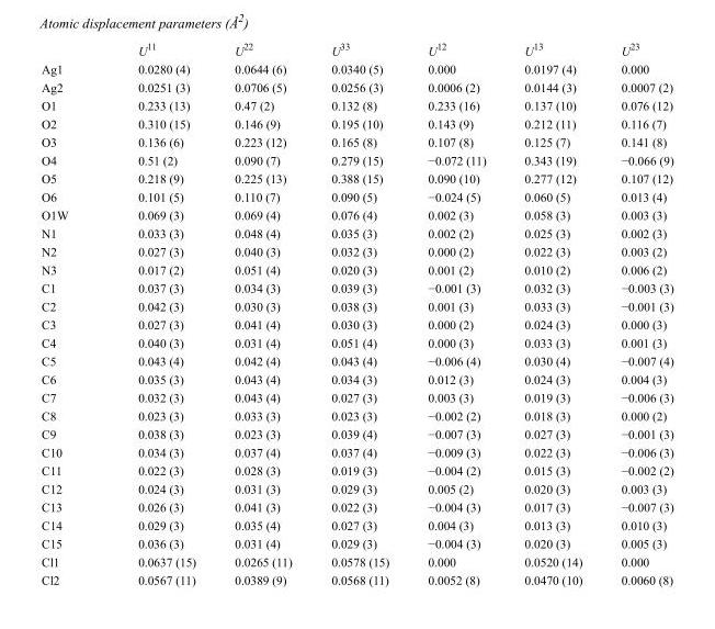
<table><thead><tr><td></td><td>U<sup>11</sup></td><td>U<sup>22</sup></td><td>U<sup>33</sup></td><td>U<sup>12</sup></td><td>U<sup>13</sup></td><td>U<sup>23</sup></td></tr></thead><tbody><tr><td>Ag1</td><td>0.0280 (4)</td><td>0.0644 (6)</td><td>0.0340 (5)</td><td>0.000</td><td>0.0197 (4)</td><td>0.000</td></tr><tr><td>Ag2</td><td>0.0251 (3)</td><td>0.0706 (5)</td><td>0.0256 (3)</td><td>0.0006 (2)</td><td>0.0144 (3)</td><td>0.0007 (2)</td></tr><tr><td>O1</td><td>0.233 (13)</td><td>0.47 (2)</td><td>0.132 (8)</td><td>0.233 (16)</td><td>0.137 (10)</td><td>0.076 (12)</td></tr><tr><td>O2</td><td>0.310 (15)</td><td>0.146 (9)</td><td>0.195 (10)</td><td>0.143 (9)</td><td>0.212 (11)</td><td>0.116 (7)</td></tr><tr><td>O3</td><td>0.136 (6)</td><td>0.223 (12)</td><td>0.165 (8)</td><td>0.107 (8)</td><td>0.125 (7)</td><td>0.141 (8)</td></tr><tr><td>O4</td><td>0.51 (2)</td><td>0.090 (7)</td><td>0.279 (15)</td><td>−0.072 (11)</td><td>0.343 (19)</td><td>−0.066 (9)</td></tr><tr><td>O5</td><td>0.218 (9)</td><td>0.225 (13)</td><td>0.388 (15)</td><td>0.090 (10)</td><td>0.277 (12)</td><td>0.107 (12)</td></tr><tr><td>O6</td><td>0.101 (5)</td><td>0.110 (7)</td><td>0.090 (5)</td><td>−0.024 (5)</td><td>0.060 (5)</td><td>0.013 (4)</td></tr><tr><td>O1W</td><td>0.069 (3)</td><td>0.069 (4)</td><td>0.076 (4)</td><td>0.002 (3)</td><td>0.058 (3)</td><td>0.003 (3)</td></tr><tr><td>N1</td><td>0.033 (3)</td><td>0.048 (4)</td><td>0.035 (3)</td><td>0.002 (2)</td><td>0.025 (3)</td><td>0.002 (3)</td></tr><tr><td>N2</td><td>0.027 (3)</td><td>0.040 (3)</td><td>0.032 (3)</td><td>0.000 (2)</td><td>0.022 (3)</td><td>0.003 (2)</td></tr><tr><td>N3</td><td>0.017 (2)</td><td>0.051 (4)</td><td>0.020 (3)</td><td>0.001 (2)</td><td>0.010 (2)</td><td>0.006 (2)</td></tr><tr><td>C1</td><td>0.037 (3)</td><td>0.034 (3)</td><td>0.039 (3)</td><td>−0.001 (3)</td><td>0.032 (3)</td><td>−0.003 (3)</td></tr><tr><td>C2</td><td>0.042 (3)</td><td>0.030 (3)</td><td>0.038 (3)</td><td>0.001 (3)</td><td>0.033 (3)</td><td>−0.001 (3)</td></tr><tr><td>C3</td><td>0.027 (3)</td><td>0.041 (4)</td><td>0.030 (3)</td><td>0.000 (2)</td><td>0.024 (3)</td><td>0.000 (3)</td></tr><tr><td>C4</td><td>0.040 (3)</td><td>0.031 (4)</td><td>0.051 (4)</td><td>0.000 (3)</td><td>0.033 (3)</td><td>0.001 (3)</td></tr><tr><td>C5</td><td>0.043 (4)</td><td>0.042 (4)</td><td>0.043 (4)</td><td>−0.006 (4)</td><td>0.030 (4)</td><td>−0.007 (4)</td></tr><tr><td>C6</td><td>0.035 (3)</td><td>0.043 (4)</td><td>0.034 (3)</td><td>0.012 (3)</td><td>0.024 (3)</td><td>0.004 (3)</td></tr><tr><td>C7</td><td>0.032 (3)</td><td>0.043 (4)</td><td>0.027 (3)</td><td>0.003 (3)</td><td>0.019 (3)</td><td>−0.006 (3)</td></tr><tr><td>C8</td><td>0.023 (3)</td><td>0.033 (3)</td><td>0.023 (3)</td><td>−0.002 (2)</td><td>0.018 (3)</td><td>0.000 (2)</td></tr><tr><td>C9</td><td>0.038 (3)</td><td>0.023 (3)</td><td>0.039 (4)</td><td>−0.007 (3)</td><td>0.027 (3)</td><td>−0.001 (3)</td></tr><tr><td>C10</td><td>0.034 (3)</td><td>0.037 (4)</td><td>0.037 (4)</td><td>−0.009 (3)</td><td>0.022 (3)</td><td>−0.006 (3)</td></tr><tr><td>C11</td><td>0.022 (3)</td><td>0.028 (3)</td><td>0.019 (3)</td><td>−0.004 (2)</td><td>0.015 (3)</td><td>−0.002 (2)</td></tr><tr><td>C12</td><td>0.024 (3)</td><td>0.031 (3)</td><td>0.029 (3)</td><td>0.005 (2)</td><td>0.020 (3)</td><td>0.003 (3)</td></tr><tr><td>C13</td><td>0.026 (3)</td><td>0.041 (3)</td><td>0.022 (3)</td><td>−0.004 (3)</td><td>0.017 (3)</td><td>−0.007 (3)</td></tr><tr><td>C14</td><td>0.029 (3)</td><td>0.035 (4)</td><td>0.027 (3)</td><td>0.004 (3)</td><td>0.013 (3)</td><td>0.010 (3)</td></tr><tr><td>C15</td><td>0.036 (3)</td><td>0.031 (4)</td><td>0.029 (3)</td><td>−0.004 (3)</td><td>0.020 (3)</td><td>0.005 (3)</td></tr><tr><td>Cl1</td><td>0.0637 (15)</td><td>0.0265 (11)</td><td>0.0578 (15)</td><td>0.000</td><td>0.0520 (14)</td><td>0.000</td></tr><tr><td>Cl2</td><td>0.0567 (11)</td><td>0.0389 (9)</td><td>0.0568 (11)</td><td>0.0052 (8)</td><td>0.0470 (10)</td><td>0.0060 (8)</td></tr></tbody></table>